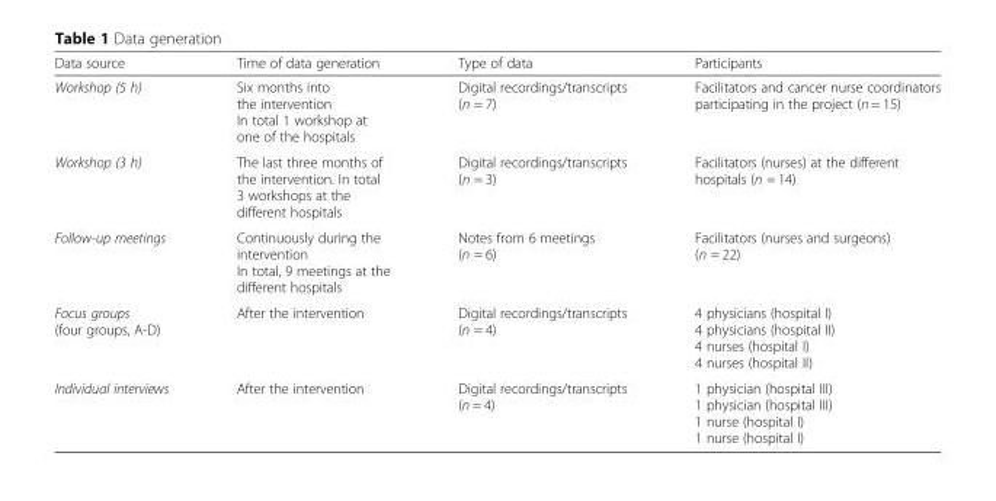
<table><thead><tr><td>Data source</td><td>Time of data generation</td><td>Type of data</td><td>Participants</td></tr></thead><tbody><tr><td>Workshop (5 h)</td><td>Six months into the intervention In total 1 workshop at one of the hospitals</td><td>Digital recordings/transcripts (n = 7)</td><td>Facilitators and cancer nurse coordinators participating in the project (n = 15)</td></tr><tr><td>Workshop (3 h)</td><td>The last three months of the intervention. In total 3 workshops at the different hospitals</td><td>Digital recordings/transcripts (n = 3)</td><td>Facilitators (nurses) at the different hospitals (n = 14)</td></tr><tr><td>Follow-up meetings</td><td>Continuously during the intervention In total, 9 meetings at the different hospitals</td><td>Notes from 6 meetings (n = 6)</td><td>Facilitators (nurses and surgeons) (n = 22)</td></tr><tr><td>Focus groups (four groups, A-D)</td><td>After the intervention</td><td>Digital recordings/transcripts (n = 4)</td><td>4 physicians (hospital I) 4 physicians (hospital II) 4 nurses (hospital I) 4 nurses (hospital II)</td></tr><tr><td>Individual interviews</td><td>After the intervention</td><td>Digital recordings/transcripts (n = 4)</td><td>1 physician (hospital III) 1 physician (hospital III) 1 nurse (hospital I) 1 nurse (hospital I)</td></tr></tbody></table>